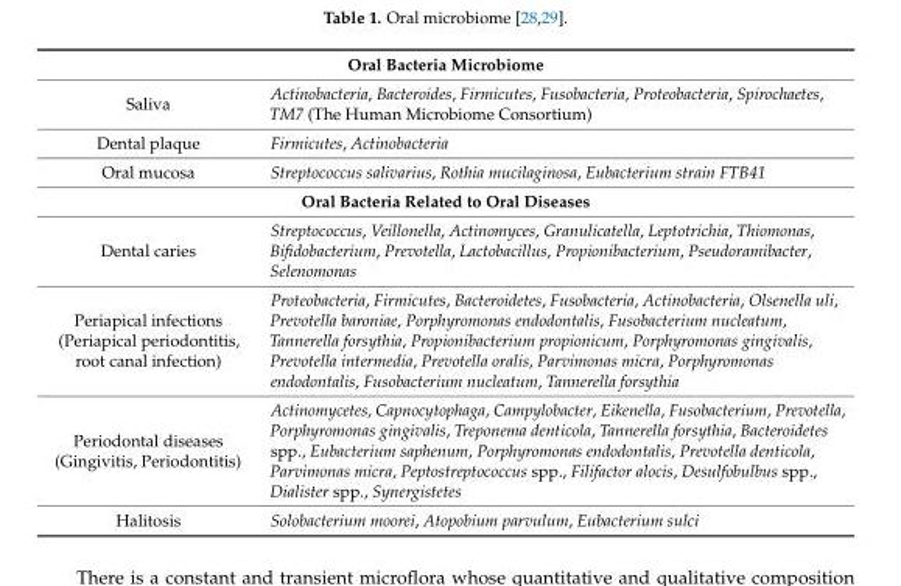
<table><tbody><tr><td colspan="2">Oral Bacteria Microbiome</td></tr><tr><td>Saliva</td><td>Actinobacteria, Bacteroides, Firmicutes, Fusobacteria, Proteobacteria, Spirochaetes, TM7 (The Human Microbiome Consortium)</td></tr><tr><td>Dental plaque</td><td>Firmicutes, Actinobacteria</td></tr><tr><td>Oral mucosa</td><td>Streptococcus salivarius, Rothia mucilaginosa, Eubacterium strain FTB41</td></tr><tr><td colspan="2">Oral Bacteria Related to Oral Diseases</td></tr><tr><td>Dental caries</td><td>Streptococcus, Veillonella, Actinomyces, Granulicatella, Leptotrichia, Thiomonas, Bifidobacterium, Prevotella, Lactobacillus, Propionibacterium, Pseudoramibacter, Selenomonas</td></tr><tr><td>Periapical infections (Periapical periodontitis, root canal infection)</td><td>Proteobacteria, Firmicutes, Bacteroidetes, Fusobacteria, Actinobacteria, Olsenella uli, Prevotella baroniae, Porphyromonas endodontalis, Fusobacterium nucleatum, Tannerella forsythia, Propionibacterium propionicum, Porphyromonas gingivalis, Prevotella intermedia, Prevotella oralis, Parvimonas micra, Porphyromonas endodontalis, Fusobacterium nucleatum, Tannerella forsythia</td></tr><tr><td>Periodontal diseases (Gingivitis, Periodontitis)</td><td>Actinomycetes, Capnocytophaga, Campylobacter, Eikenella, Fusobacterium, Prevotella, Porphyromonas gingivalis, Treponema denticola, Tannerella forsythia, Bacteroidetes spp., Eubacterium saphenum, Porphyromonas endodontalis, Prevotella denticola, Parvimonas micra, Peptostreptococcus spp., Filifactor alocis, Desulfobulbus spp., Dialister spp., Synergistetes</td></tr><tr><td>Halitosis</td><td>Solobacterium moorei, Atopobium parvulum, Eubacterium sulci</td></tr></tbody></table>